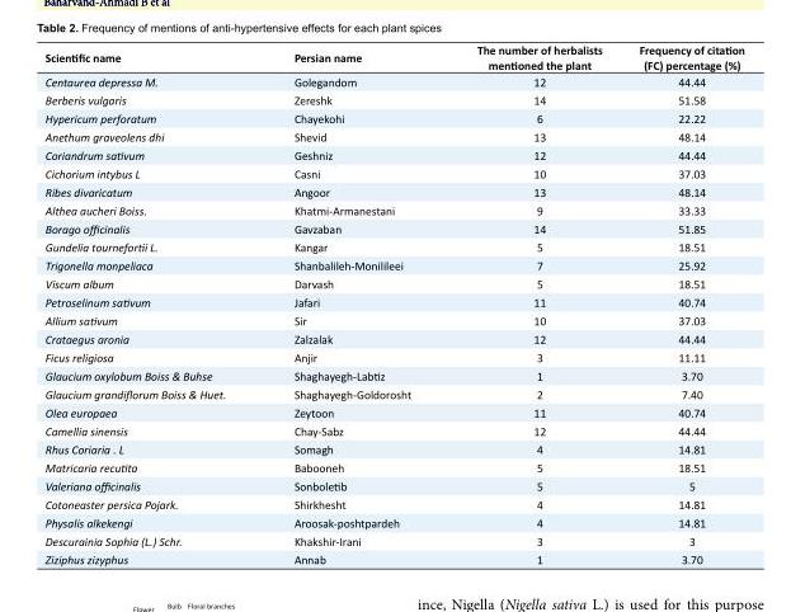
<table><tbody><tr><td>Scientific name</td><td>Persian name</td><td>The number of herbalists mentioned the plant</td><td>Frequency of citation (FC) percentage (%)</td></tr><tr><td>Centaurea depressa M.</td><td>Golegandom</td><td>12</td><td>44.44</td></tr><tr><td>Berberis vulgaris</td><td>Zereshk</td><td>14</td><td>51.58</td></tr><tr><td>Hypericum perforatum</td><td>Chayekohi</td><td>6</td><td>22.22</td></tr><tr><td>Anethum graveolens dhi</td><td>Shevid</td><td>13</td><td>48.14</td></tr><tr><td>Coriandrum sativum</td><td>Geshniz</td><td>12</td><td>44.44</td></tr><tr><td>Cichorium intybus L</td><td>Casni</td><td>10</td><td>37.03</td></tr><tr><td>Ribes divaricatum</td><td>Angoor</td><td>13</td><td>48.14</td></tr><tr><td>Althea aucheri Boiss.</td><td>Khatmi-Armanestani</td><td>9</td><td>33.33</td></tr><tr><td>Borago officinalis</td><td>Gavzaban</td><td>14</td><td>51.85</td></tr><tr><td>Gundelia tournefortii L.</td><td>Kangar</td><td>5</td><td>18.51</td></tr><tr><td>Trigonella monpeliaca</td><td>Shanbalileh-Monilileei</td><td>7</td><td>25.92</td></tr><tr><td>Viscum album</td><td>Darvash</td><td>5</td><td>18.51</td></tr><tr><td>Petroselinum sativum</td><td>Jafari</td><td>11</td><td>40.74</td></tr><tr><td>Allium sativum</td><td>Sir</td><td>10</td><td>37.03</td></tr><tr><td>Crataegus aronia</td><td>Zalzalak</td><td>12</td><td>44.44</td></tr><tr><td>Ficus religiosa</td><td>Anjir</td><td>3</td><td>11.11</td></tr><tr><td>Glaucium oxylobum Boiss &amp; Buhse</td><td>Shaghayegh-Labtiz</td><td>1</td><td>3.70</td></tr><tr><td>Glaucium grandiflorum Boiss &amp; Huet.</td><td>Shaghayegh-Goldorosht</td><td>2</td><td>7.40</td></tr><tr><td>Olea europaea</td><td>Zeytoon</td><td>11</td><td>40.74</td></tr><tr><td>Camellia sinensis</td><td>Chay-Sabz</td><td>12</td><td>44.44</td></tr><tr><td>Rhus Coriaria . L</td><td>Somagh</td><td>4</td><td>14.81</td></tr><tr><td>Matricaria recutita</td><td>Babooneh</td><td>5</td><td>18.51</td></tr><tr><td>Valeriana officinalis</td><td>Sonboletib</td><td>5</td><td>5</td></tr><tr><td>Cotoneaster persica Pojark.</td><td>Shirkhesht</td><td>4</td><td>14.81</td></tr><tr><td>Physalis alkekengi</td><td>Aroosak-poshtpardeh</td><td>4</td><td>14.81</td></tr><tr><td>Descurainia Sophia (L.) Schr.</td><td>Khakshir-Irani</td><td>3</td><td>3</td></tr><tr><td>Ziziphus zizyphus</td><td>Annab</td><td>1</td><td>3.70</td></tr></tbody></table>